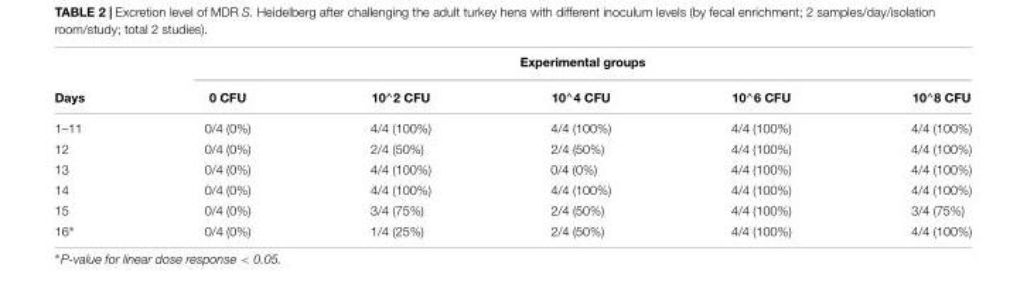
<table><thead><tr><td rowspan="2">Days</td><td colspan="5">Experimental groups</td></tr><tr><td>0 CFU</td><td>10<sup>∧</sup>2 CFU</td><td>10<sup>∧</sup>4 CFU</td><td>10<sup>∧</sup>6 CFU</td><td>10<sup>∧</sup>8 CFU</td></tr></thead><tbody><tr><td>1–11</td><td>0/4 (0%)</td><td>4/4 (100%)</td><td>4/4 (100%)</td><td>4/4 (100%)</td><td>4/4 (100%)</td></tr><tr><td>12</td><td>0/4 (0%)</td><td>2/4 (50%)</td><td>2/4 (50%)</td><td>4/4 (100%)</td><td>4/4 (100%)</td></tr><tr><td>13</td><td>0/4 (0%)</td><td>4/4 (100%)</td><td>0/4 (0%)</td><td>4/4 (100%)</td><td>4/4 (100%)</td></tr><tr><td>14</td><td>0/4 (0%)</td><td>4/4 (100%)</td><td>4/4 (100%)</td><td>4/4 (100%)</td><td>4/4 (100%)</td></tr><tr><td>15</td><td>0/4 (0%)</td><td>3/4 (75%)</td><td>2/4 (50%)</td><td>4/4 (100%)</td><td>3/4 (75%)</td></tr><tr><td>16∗</td><td>0/4 (0%)</td><td>1/4 (25%)</td><td>2/4 (50%)</td><td>4/4 (100%)</td><td>4/4 (100%)</td></tr></tbody></table>